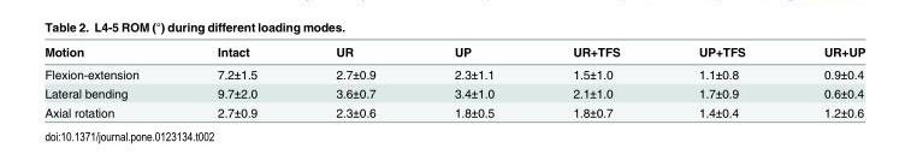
<table><thead><tr><td>Motion</td><td>Intact</td><td>UR</td><td>UP</td><td>UR+TFS</td><td>UP+TFS</td><td>UR+UP</td></tr></thead><tbody><tr><td>Flexion-extension</td><td>7.2±1.5</td><td>2.7±0.9</td><td>2.3±1.1</td><td>1.5±1.0</td><td>1.1±0.8</td><td>0.9±0.4</td></tr><tr><td>Lateral bending</td><td>9.7±2.0</td><td>3.6±0.7</td><td>3.4±1.0</td><td>2.1±1.0</td><td>1.7±0.9</td><td>0.6±0.4</td></tr><tr><td>Axial rotation</td><td>2.7±0.9</td><td>2.3±0.6</td><td>1.8±0.5</td><td>1.8±0.7</td><td>1.4±0.4</td><td>1.2±0.6</td></tr></tbody></table>